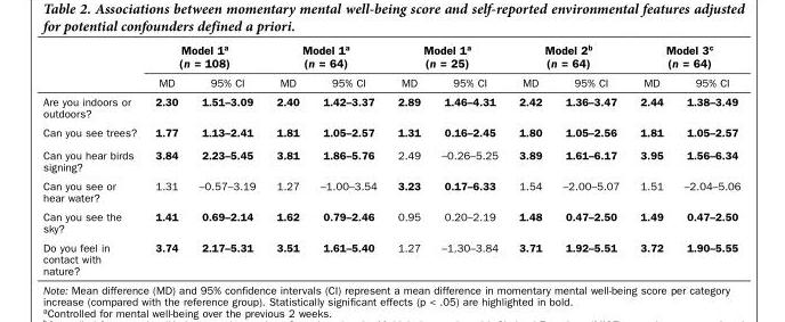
<table><thead><tr><td rowspan="2"></td><td colspan="2">Model 1<sup>a</sup> (n = 108)</td><td colspan="2">Model 1<sup>a</sup> (n = 64)</td><td colspan="2">Model 1<sup>a</sup> (n = 25)</td><td colspan="2">Model 2<sup>b</sup> (n = 64)</td><td colspan="2">Model 3<sup>c</sup> (n = 64)</td></tr><tr><td>MD</td><td>95% CI</td><td>MD</td><td>95% CI</td><td>MD</td><td>95% CI</td><td>MD</td><td>95% CI</td><td>MD</td><td>95% CI</td></tr></thead><tbody><tr><td>Are you indoors or outdoors?</td><td>2.30</td><td>1.51–3.09</td><td>2.40</td><td>1.42–3.37</td><td>2.89</td><td>1.46–4.31</td><td>2.42</td><td>1.36–3.47</td><td>2.44</td><td>1.38–3.49</td></tr><tr><td>Can you see trees?</td><td>1.77</td><td>1.13–2.41</td><td>1.81</td><td>1.05–2.57</td><td>1.31</td><td>0.16–2.45</td><td>1.80</td><td>1.05–2.56</td><td>1.81</td><td>1.05–2.57</td></tr><tr><td>Can you hear birds signing?</td><td>3.84</td><td>2.23–5.45</td><td>3.81</td><td>1.86–5.76</td><td>2.49</td><td>–0.26–5.25</td><td>3.89</td><td>1.61–6.17</td><td>3.95</td><td>1.56–6.34</td></tr><tr><td>Can you see or hear water?</td><td>1.31</td><td>–0.57–3.19</td><td>1.27</td><td>–1.00–3.54</td><td>3.23</td><td>0.17–6.33</td><td>1.54</td><td>–2.00–5.07</td><td>1.51</td><td>–2.04–5.06</td></tr><tr><td>Can you see the sky?</td><td>1.41</td><td>0.69–2.14</td><td>1.62</td><td>0.79–2.46</td><td>0.95</td><td>0.20–2.19</td><td>1.48</td><td>0.47–2.50</td><td>1.49</td><td>0.47–2.50</td></tr><tr><td>Do you feel in contact with nature?</td><td>3.74</td><td>2.17–5.31</td><td>3.51</td><td>1.61–5.40</td><td>1.27</td><td>–1.30–3.84</td><td>3.71</td><td>1.92–5.51</td><td>3.72</td><td>1.90–5.55</td></tr></tbody></table>